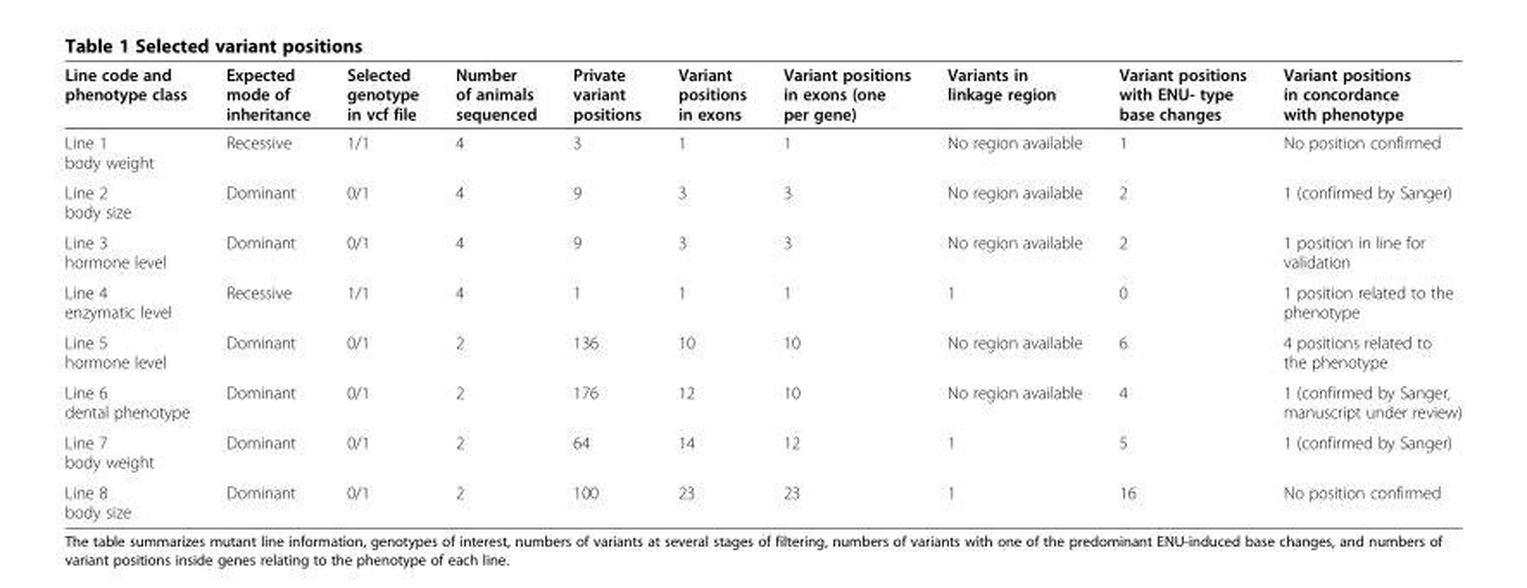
<table><thead><tr><td>Line code and phenotype class</td><td>Expected mode of inheritance</td><td>Selected genotype in vcf file</td><td>Number of animals sequenced</td><td>Private variant positions</td><td>Variant positions in exons</td><td>Variant positions in exons (one per gene)</td><td>Variants in linkage region</td><td>Variant positions with ENU- type base changes</td><td>Variant positions in concordance with phenotype</td></tr></thead><tbody><tr><td>Line 1 body weight</td><td>Recessive</td><td>1/1</td><td>4</td><td>3</td><td>1</td><td>1</td><td>No region available</td><td>1</td><td>No position confirmed</td></tr><tr><td>Line 2 body size</td><td>Dominant</td><td>0/1</td><td>4</td><td>9</td><td>3</td><td>3</td><td>No region available</td><td>2</td><td>1 (confirmed by Sanger)</td></tr><tr><td>Line 3 hormone level</td><td>Dominant</td><td>0/1</td><td>4</td><td>9</td><td>3</td><td>3</td><td>No region available</td><td>2</td><td>1 position in line for validation</td></tr><tr><td>Line 4 enzymatic level</td><td>Recessive</td><td>1/1</td><td>4</td><td>1</td><td>1</td><td>1</td><td>1</td><td>0</td><td>1 position related to the phenotype</td></tr><tr><td>Line 5 hormone level</td><td>Dominant</td><td>0/1</td><td>2</td><td>136</td><td>10</td><td>10</td><td>No region available</td><td>6</td><td>4 positions related to the phenotype</td></tr><tr><td>Line 6 dental phenotype</td><td>Dominant</td><td>0/1</td><td>2</td><td>176</td><td>12</td><td>10</td><td>No region available</td><td>4</td><td>1 (confirmed by Sanger, manuscript under review)</td></tr><tr><td>Line 7 body weight</td><td>Dominant</td><td>0/1</td><td>2</td><td>64</td><td>14</td><td>12</td><td>1</td><td>5</td><td>1 (confirmed by Sanger)</td></tr><tr><td>Line 8 body size</td><td>Dominant</td><td>0/1</td><td>2</td><td>100</td><td>23</td><td>23</td><td>1</td><td>16</td><td>No position confirmed</td></tr></tbody></table>